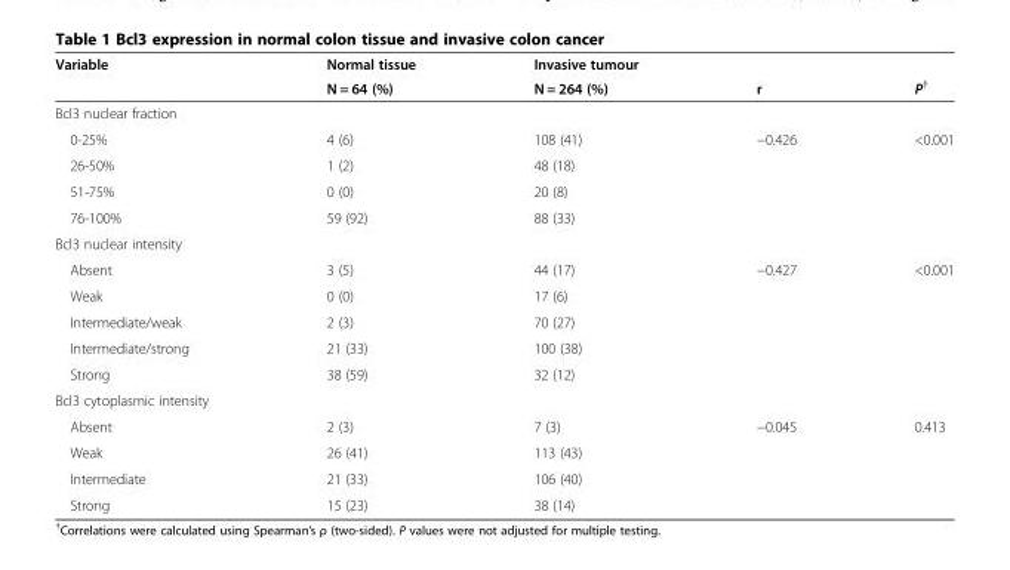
<table><thead><tr><td rowspan="2">Variable</td><td rowspan="2">Normal tissue N = 64 (%)</td><td rowspan="2">Invasive tumour N = 264 (%)</td><td rowspan="2">r</td><td rowspan="2">P<sup>†</sup></td></tr><tr></tr></thead><tbody><tr><td colspan="5">Bcl3 nuclear fraction</td></tr><tr><td>0-25%</td><td>4 (6)</td><td>108 (41)</td><td>−0.426</td><td>&lt;0.001</td></tr><tr><td>26-50%</td><td>1 (2)</td><td>48 (18)</td><td></td><td></td></tr><tr><td>51-75%</td><td>0 (0)</td><td>20 (8)</td><td></td><td></td></tr><tr><td>76-100%</td><td>59 (92)</td><td>88 (33)</td><td></td><td></td></tr><tr><td colspan="5">Bcl3 nuclear intensity</td></tr><tr><td>Absent</td><td>3 (5)</td><td>44 (17)</td><td>−0.427</td><td>&lt;0.001</td></tr><tr><td>Weak</td><td>0 (0)</td><td>17 (6)</td><td></td><td></td></tr><tr><td>Intermediate/weak</td><td>2 (3)</td><td>70 (27)</td><td></td><td></td></tr><tr><td>Intermediate/strong</td><td>21 (33)</td><td>100 (38)</td><td></td><td></td></tr><tr><td>Strong</td><td>38 (59)</td><td>32 (12)</td><td></td><td></td></tr><tr><td colspan="5">Bcl3 cytoplasmic intensity</td></tr><tr><td>Absent</td><td>2 (3)</td><td>7 (3)</td><td>−0.045</td><td>0.413</td></tr><tr><td>Weak</td><td>26 (41)</td><td>113 (43)</td><td></td><td></td></tr><tr><td>Intermediate</td><td>21 (33)</td><td>106 (40)</td><td></td><td></td></tr><tr><td>Strong</td><td>15 (23)</td><td>38 (14)</td><td></td><td></td></tr></tbody></table>